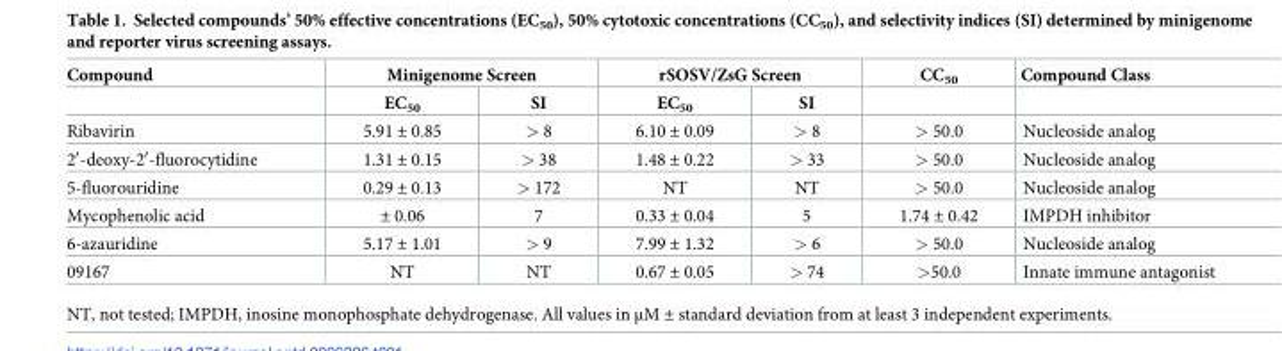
<table><thead><tr><td rowspan="2">Compound</td><td colspan="2">Minigenome Screen</td><td colspan="2">rSOSV/ZsG Screen</td><td rowspan="2">CC<sub>50</sub></td><td rowspan="2">Compound Class</td></tr><tr><td>EC<sub>50</sub></td><td>SI</td><td>EC<sub>50</sub></td><td>SI</td></tr></thead><tbody><tr><td>Ribavirin</td><td>5.91 ± 0.85</td><td>&gt; 8</td><td>6.10 ± 0.09</td><td>&gt; 8</td><td>&gt; 50.0</td><td>Nucleoside analog</td></tr><tr><td>2′-deoxy-2′-fluorocytidine</td><td>1.31 ± 0.15</td><td>&gt; 38</td><td>1.48 ± 0.22</td><td>&gt; 33</td><td>&gt; 50.0</td><td>Nucleoside analog</td></tr><tr><td>5-fluorouridine</td><td>0.29 ± 0.13</td><td>&gt; 172</td><td>NT</td><td>NT</td><td>&gt; 50.0</td><td>Nucleoside analog</td></tr><tr><td>Mycophenolic acid</td><td>± 0.06</td><td>7</td><td>0.33 ± 0.04</td><td>5</td><td>1.74 ± 0.42</td><td>IMPDH inhibitor</td></tr><tr><td>6-azauridine</td><td>5.17 ± 1.01</td><td>&gt; 9</td><td>7.99 ± 1.32</td><td>&gt; 6</td><td>&gt; 50.0</td><td>Nucleoside analog</td></tr><tr><td>09167</td><td>NT</td><td>NT</td><td>0.67 ± 0.05</td><td>&gt; 74</td><td>&gt;50.0</td><td>Innate immune antagonist</td></tr></tbody></table>